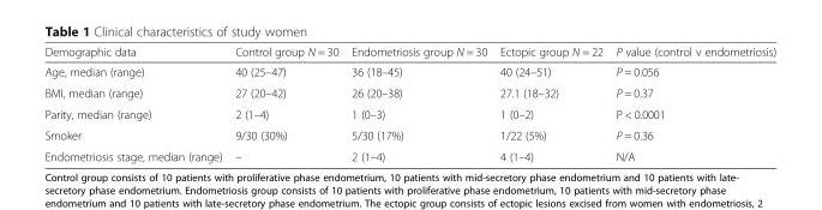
<table><thead><tr><td>Demographic data</td><td>Control group N = 30</td><td>Endometriosis group N = 30</td><td>Ectopic group N = 22</td><td>P value (control v endometriosis)</td></tr></thead><tbody><tr><td>Age, median (range)</td><td>40 (25–47)</td><td>36 (18–45)</td><td>40 (24–51)</td><td>P = 0.056</td></tr><tr><td>BMI, median (range)</td><td>27 (20–42)</td><td>26 (20–38)</td><td>27.1 (18–32)</td><td>P = 0.37</td></tr><tr><td>Parity, median (range)</td><td>2 (1–4)</td><td>1 (0–3)</td><td>1 (0–2)</td><td>P &lt; 0.0001</td></tr><tr><td>Smoker</td><td>9/30 (30%)</td><td>5/30 (17%)</td><td>1/22 (5%)</td><td>P = 0.36</td></tr><tr><td>Endometriosis stage, median (range)</td><td>–</td><td>2 (1–4)</td><td>4 (1–4)</td><td>N/A</td></tr></tbody></table>